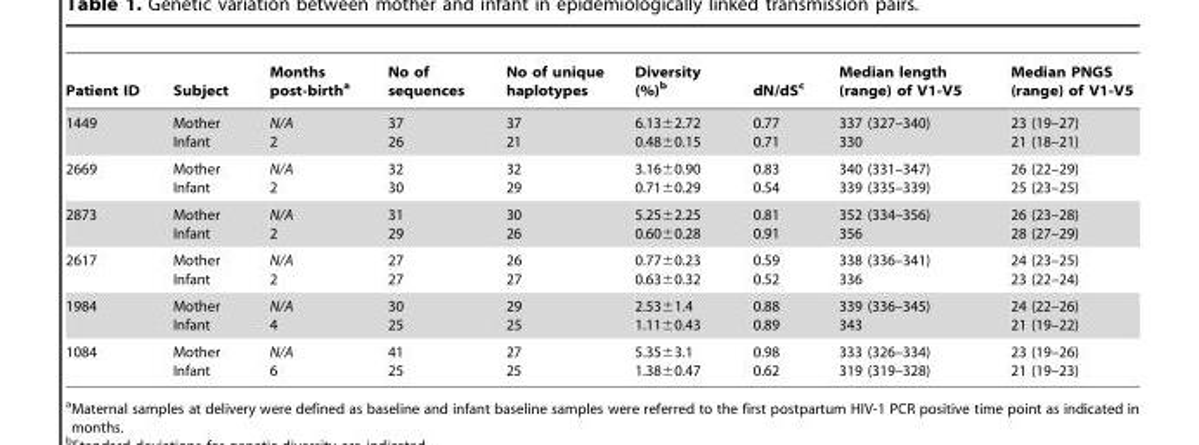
<table><thead><tr><td>Patient ID</td><td>Subject</td><td>Months post-birth<sup>a</sup></td><td>No of sequences</td><td>No of unique haplotypes</td><td>Diversity (%)<sup>b</sup></td><td>dN/dS<sup>c</sup></td><td>Median length (range) of V1-V5</td><td>Median PNGS (range) of V1-V5</td></tr></thead><tbody><tr><td>1449</td><td>Mother Infant</td><td>N/A 2</td><td>37 26</td><td>37 21</td><td>6.13±2.72 0.48±0.15</td><td>0.77 0.71</td><td>337 (327–340) 330</td><td>23 (19–27) 21 (18–21)</td></tr><tr><td>2669</td><td>Mother Infant</td><td>N/A 2</td><td>32 30</td><td>32 29</td><td>3.16±0.90 0.71±0.29</td><td>0.83 0.54</td><td>340 (331–347) 339 (335–339)</td><td>26 (22–29) 25 (23–25)</td></tr><tr><td>2873</td><td>Mother Infant</td><td>N/A 2</td><td>31 29</td><td>30 26</td><td>5.25±2.25 0.60±0.28</td><td>0.81 0.91</td><td>352 (334–356) 356</td><td>26 (23–28) 28 (27–29)</td></tr><tr><td>2617</td><td>Mother Infant</td><td>N/A 2</td><td>27 27</td><td>26 27</td><td>0.77±0.23 0.63±0.32</td><td>0.59 0.52</td><td>338 (336–341) 336</td><td>24 (23–25) 23 (22–24)</td></tr><tr><td>1984</td><td>Mother Infant</td><td>N/A 4</td><td>30 25</td><td>29 25</td><td>2.53±1.4 1.11±0.43</td><td>0.88 0.89</td><td>339 (336–345) 343</td><td>24 (22–26) 21 (19–22)</td></tr><tr><td>1084</td><td>Mother Infant</td><td>N/A 6</td><td>41 25</td><td>27 25</td><td>5.35±3.1 1.38±0.47</td><td>0.98 0.62</td><td>333 (326–334) 319 (319–328)</td><td>23 (19–26) 21 (19–23)</td></tr></tbody></table>